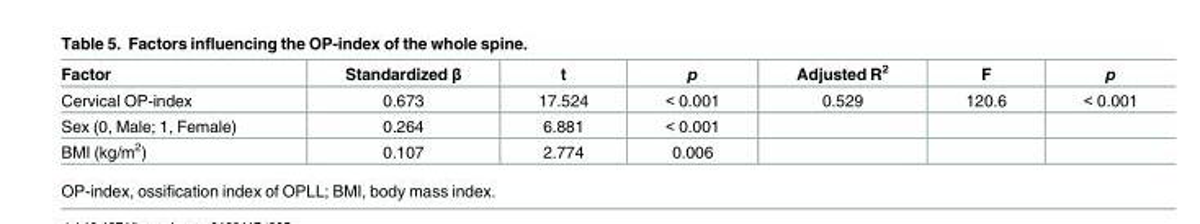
<table><thead><tr><td>Factor</td><td>Standardized β</td><td>t</td><td>p</td><td>Adjusted R<sup>2</sup></td><td>F</td><td>p</td></tr></thead><tbody><tr><td>Cervical OP-index</td><td>0.673</td><td>17.524</td><td>&lt; 0.001</td><td>0.529</td><td>120.6</td><td>&lt; 0.001</td></tr><tr><td>Sex (0, Male; 1, Female)</td><td>0.264</td><td>6.881</td><td>&lt; 0.001</td><td></td><td></td><td></td></tr><tr><td>BMI (kg/m<sup>2</sup>)</td><td>0.107</td><td>2.774</td><td>0.006</td><td></td><td></td><td></td></tr></tbody></table>